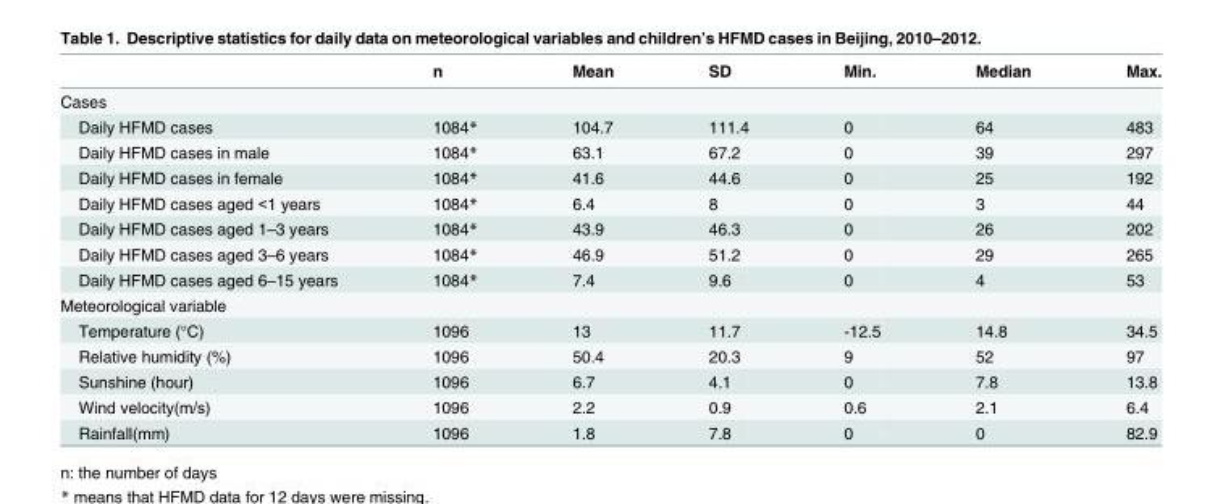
<table><thead><tr><td></td><td>n</td><td>Mean</td><td>SD</td><td>Min.</td><td>Median</td><td>Max.</td></tr></thead><tbody><tr><td colspan="7">Cases</td></tr><tr><td>Daily HFMD cases</td><td>1084*</td><td>104.7</td><td>111.4</td><td>0</td><td>64</td><td>483</td></tr><tr><td>Daily HFMD cases in male</td><td>1084*</td><td>63.1</td><td>67.2</td><td>0</td><td>39</td><td>297</td></tr><tr><td>Daily HFMD cases in female</td><td>1084*</td><td>41.6</td><td>44.6</td><td>0</td><td>25</td><td>192</td></tr><tr><td>Daily HFMD cases aged &lt;1 years</td><td>1084*</td><td>6.4</td><td>8</td><td>0</td><td>3</td><td>44</td></tr><tr><td>Daily HFMD cases aged 1–3 years</td><td>1084*</td><td>43.9</td><td>46.3</td><td>0</td><td>26</td><td>202</td></tr><tr><td>Daily HFMD cases aged 3–6 years</td><td>1084*</td><td>46.9</td><td>51.2</td><td>0</td><td>29</td><td>265</td></tr><tr><td>Daily HFMD cases aged 6–15 years</td><td>1084*</td><td>7.4</td><td>9.6</td><td>0</td><td>4</td><td>53</td></tr><tr><td colspan="7">Meteorological variable</td></tr><tr><td>Temperature (°C)</td><td>1096</td><td>13</td><td>11.7</td><td>-12.5</td><td>14.8</td><td>34.5</td></tr><tr><td>Relative humidity (%)</td><td>1096</td><td>50.4</td><td>20.3</td><td>9</td><td>52</td><td>97</td></tr><tr><td>Sunshine (hour)</td><td>1096</td><td>6.7</td><td>4.1</td><td>0</td><td>7.8</td><td>13.8</td></tr><tr><td>Wind velocity(m/s)</td><td>1096</td><td>2.2</td><td>0.9</td><td>0.6</td><td>2.1</td><td>6.4</td></tr><tr><td>Rainfall(mm)</td><td>1096</td><td>1.8</td><td>7.8</td><td>0</td><td>0</td><td>82.9</td></tr></tbody></table>